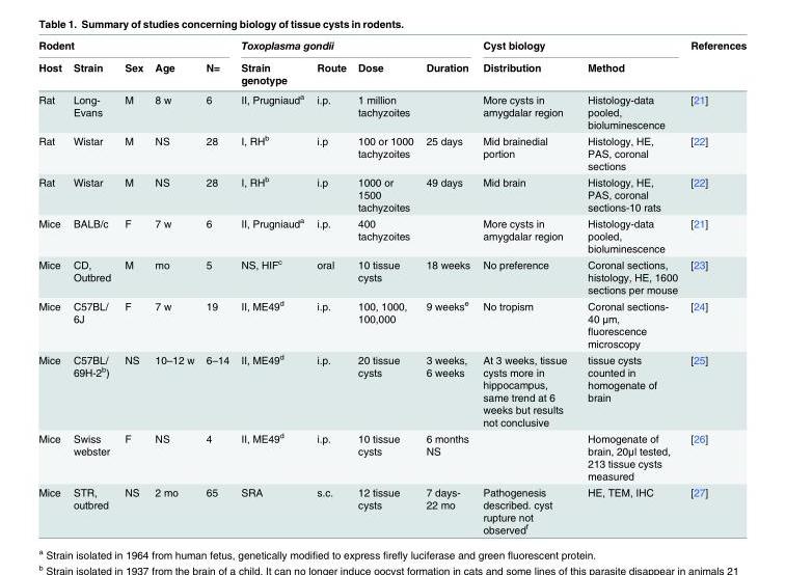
<table><thead><tr><td colspan="5">Rodent</td><td colspan="4">Toxoplasma gondii</td><td colspan="2">Cyst biology</td><td rowspan="2">References</td></tr><tr><td>Host</td><td>Strain</td><td>Sex</td><td>Age</td><td>N=</td><td>Strain genotype</td><td>Route</td><td>Dose</td><td>Duration</td><td>Distribution</td><td>Method</td></tr></thead><tbody><tr><td>Rat</td><td>Long- Evans</td><td>M</td><td>8 w</td><td>6</td><td>II, Prugniaud<sup>a</sup></td><td>i.p.</td><td>1 million tachyzoites</td><td></td><td>More cysts in amygdalar region</td><td>Histology-data pooled, bioluminescence</td><td>[21]</td></tr><tr><td>Rat</td><td>Wistar</td><td>M</td><td>NS</td><td>28</td><td>I, RH<sup>b</sup></td><td>i.p</td><td>100 or 1000 tachyzoites</td><td>25 days</td><td>Mid brainedial portion</td><td>Histology, HE, PAS, coronal sections</td><td>[22]</td></tr><tr><td>Rat</td><td>Wistar</td><td>M</td><td>NS</td><td>28</td><td>I, RH<sup>b</sup></td><td>i.p</td><td>1000 or 1500 tachyzoites</td><td>49 days</td><td>Mid brain</td><td>Histology, HE, PAS, coronal sections-10 rats</td><td>[22]</td></tr><tr><td>Mice</td><td>BALB/c</td><td>F</td><td>7 w</td><td>6</td><td>II, Prugniaud<sup>a</sup></td><td>i.p.</td><td>400 tachyzoites</td><td></td><td>More cysts in amygdalar region</td><td>Histology-data pooled, bioluminescence</td><td>[21]</td></tr><tr><td>Mice</td><td>CD, Outbred</td><td>M</td><td>mo</td><td>5</td><td>NS, HIF<sup>c</sup></td><td>oral</td><td>10 tissue cysts</td><td>18 weeks</td><td>No preference</td><td>Coronal sections, histology, HE, 1600 sections per mouse</td><td>[23]</td></tr><tr><td>Mice</td><td>C57BL/ 6J</td><td>F</td><td>7 w</td><td>19</td><td>II, ME49<sup>d</sup></td><td>i.p.</td><td>100, 1000, 100,000</td><td>9 weeks<sup>e</sup></td><td>No tropism</td><td>Coronal sections- 40 μm, fluorescence microscopy</td><td>[24]</td></tr><tr><td>Mice</td><td>C57BL/ 69H-2<sup>b</sup>)</td><td>NS</td><td>10–12 w</td><td>6–14</td><td>II, ME49<sup>d</sup></td><td>i.p.</td><td>20 tissue cysts</td><td>3 weeks, 6 weeks</td><td>At 3 weeks, tissue cysts more in hippocampus, same trend at 6 weeks but results not conclusive</td><td>tissue cysts counted in homogenate of brain</td><td>[25]</td></tr><tr><td>Mice</td><td>Swiss webster</td><td>F</td><td>NS</td><td>4</td><td>II, ME49<sup>d</sup></td><td>i.p.</td><td>10 tissue cysts</td><td>6 months NS</td><td></td><td>Homogenate of brain, 20μl tested, 213 tissue cysts measured</td><td>[26]</td></tr><tr><td>Mice</td><td>STR, outbred</td><td>NS</td><td>2 mo</td><td>65</td><td>SRA</td><td>s.c.</td><td>12 tissue cysts</td><td>7 days- 22 mo</td><td>Pathogenesis described. cyst rupture not observed<sup>f</sup></td><td>HE, TEM, IHC</td><td>[27]</td></tr></tbody></table>